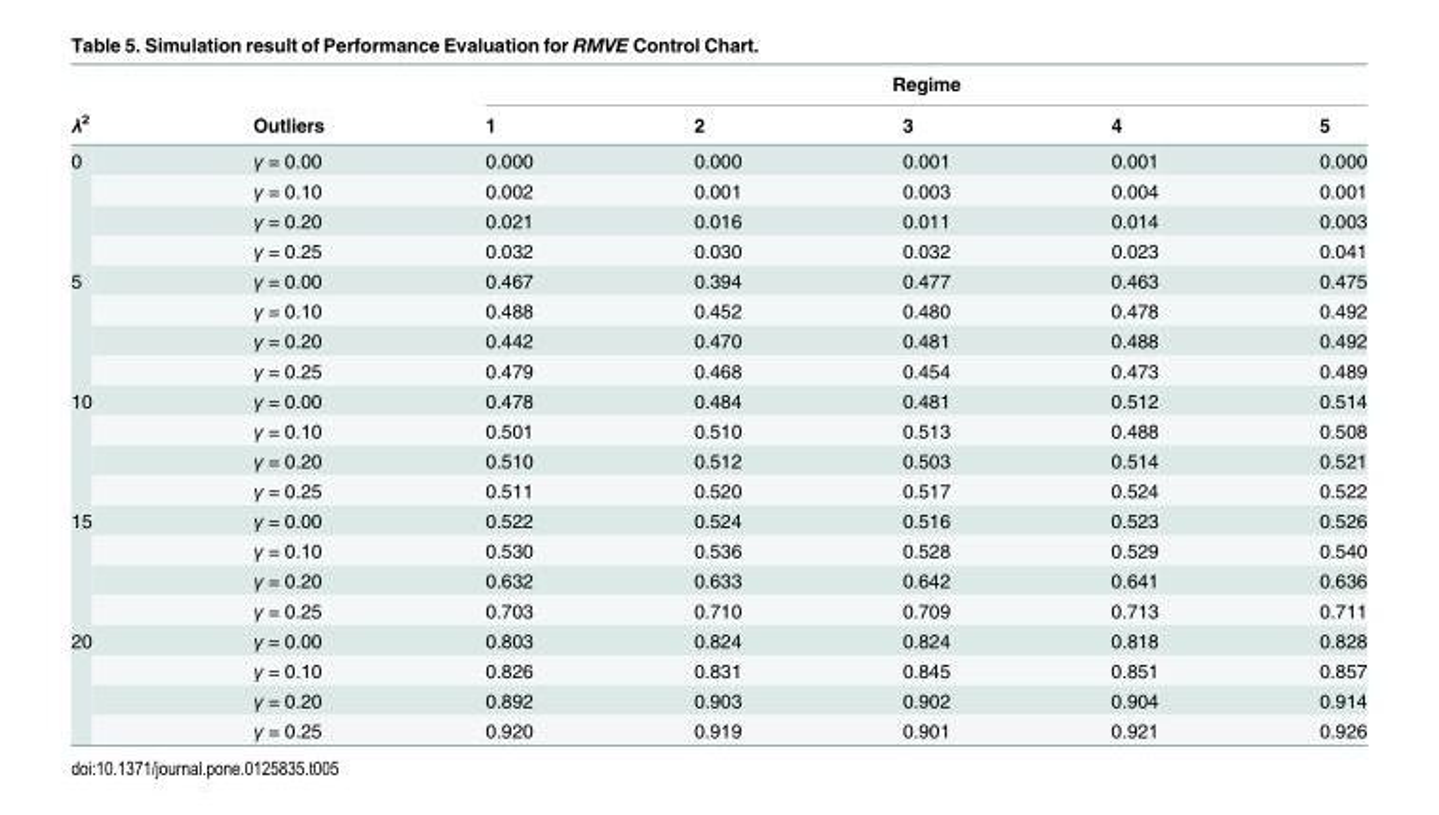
<table><thead><tr><td rowspan="2">λ<sup>2</sup></td><td rowspan="2">Outliers</td><td colspan="5">Regime</td></tr><tr><td>1</td><td>2</td><td>3</td><td>4</td><td>5</td></tr></thead><tbody><tr><td rowspan="4">0</td><td>γ = 0.00</td><td>0.000</td><td>0.000</td><td>0.001</td><td>0.001</td><td>0.000</td></tr><tr><td>γ = 0.10</td><td>0.002</td><td>0.001</td><td>0.003</td><td>0.004</td><td>0.001</td></tr><tr><td>γ = 0.20</td><td>0.021</td><td>0.016</td><td>0.011</td><td>0.014</td><td>0.003</td></tr><tr><td>γ = 0.25</td><td>0.032</td><td>0.030</td><td>0.032</td><td>0.023</td><td>0.041</td></tr><tr><td rowspan="4">5</td><td>γ = 0.00</td><td>0.467</td><td>0.394</td><td>0.477</td><td>0.463</td><td>0.475</td></tr><tr><td>γ = 0.10</td><td>0.488</td><td>0.452</td><td>0.480</td><td>0.478</td><td>0.492</td></tr><tr><td>γ = 0.20</td><td>0.442</td><td>0.470</td><td>0.481</td><td>0.488</td><td>0.492</td></tr><tr><td>γ = 0.25</td><td>0.479</td><td>0.468</td><td>0.454</td><td>0.473</td><td>0.489</td></tr><tr><td rowspan="4">10</td><td>γ = 0.00</td><td>0.478</td><td>0.484</td><td>0.481</td><td>0.512</td><td>0.514</td></tr><tr><td>γ = 0.10</td><td>0.501</td><td>0.510</td><td>0.513</td><td>0.488</td><td>0.508</td></tr><tr><td>γ = 0.20</td><td>0.510</td><td>0.512</td><td>0.503</td><td>0.514</td><td>0.521</td></tr><tr><td>γ = 0.25</td><td>0.511</td><td>0.520</td><td>0.517</td><td>0.524</td><td>0.522</td></tr><tr><td rowspan="4">15</td><td>γ = 0.00</td><td>0.522</td><td>0.524</td><td>0.516</td><td>0.523</td><td>0.526</td></tr><tr><td>γ = 0.10</td><td>0.530</td><td>0.536</td><td>0.528</td><td>0.529</td><td>0.540</td></tr><tr><td>γ = 0.20</td><td>0.632</td><td>0.633</td><td>0.642</td><td>0.641</td><td>0.636</td></tr><tr><td>γ = 0.25</td><td>0.703</td><td>0.710</td><td>0.709</td><td>0.713</td><td>0.711</td></tr><tr><td rowspan="4">20</td><td>γ = 0.00</td><td>0.803</td><td>0.824</td><td>0.824</td><td>0.818</td><td>0.828</td></tr><tr><td>γ = 0.10</td><td>0.826</td><td>0.831</td><td>0.845</td><td>0.851</td><td>0.857</td></tr><tr><td>γ = 0.20</td><td>0.892</td><td>0.903</td><td>0.902</td><td>0.904</td><td>0.914</td></tr><tr><td>γ = 0.25</td><td>0.920</td><td>0.919</td><td>0.901</td><td>0.921</td><td>0.926</td></tr></tbody></table>